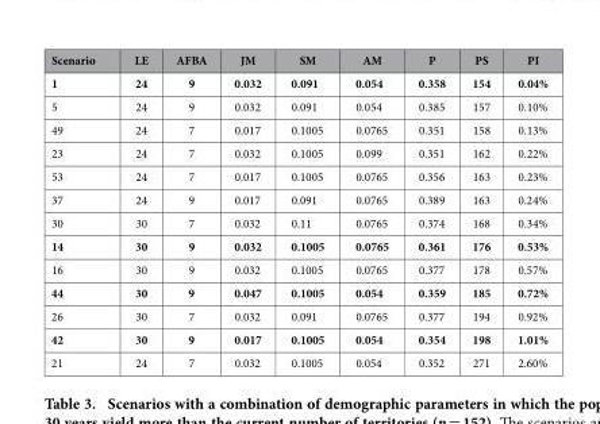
<table><thead><tr><td>Scenario</td><td>LE</td><td>AFBA</td><td>JM</td><td>SM</td><td>AM</td><td>P</td><td>PS</td><td>PI</td></tr></thead><tbody><tr><td>1</td><td>24</td><td>9</td><td>0.032</td><td>0.091</td><td>0.054</td><td>0.358</td><td>154</td><td>0.04%</td></tr><tr><td>5</td><td>24</td><td>9</td><td>0.032</td><td>0.091</td><td>0.054</td><td>0.385</td><td>157</td><td>0.10%</td></tr><tr><td>49</td><td>24</td><td>7</td><td>0.017</td><td>0.1005</td><td>0.0765</td><td>0.351</td><td>158</td><td>0.13%</td></tr><tr><td>23</td><td>24</td><td>7</td><td>0.032</td><td>0.1005</td><td>0.099</td><td>0.351</td><td>162</td><td>0.22%</td></tr><tr><td>53</td><td>24</td><td>7</td><td>0.017</td><td>0.1005</td><td>0.0765</td><td>0.356</td><td>163</td><td>0.23%</td></tr><tr><td>37</td><td>24</td><td>9</td><td>0.017</td><td>0.091</td><td>0.0765</td><td>0.389</td><td>163</td><td>0.24%</td></tr><tr><td>30</td><td>30</td><td>7</td><td>0.032</td><td>0.11</td><td>0.0765</td><td>0.374</td><td>168</td><td>0.34%</td></tr><tr><td>14</td><td>30</td><td>9</td><td>0.032</td><td>0.1005</td><td>0.0765</td><td>0.361</td><td>176</td><td>0.53%</td></tr><tr><td>16</td><td>30</td><td>9</td><td>0.032</td><td>0.1005</td><td>0.0765</td><td>0.377</td><td>178</td><td>0.57%</td></tr><tr><td>44</td><td>30</td><td>9</td><td>0.047</td><td>0.1005</td><td>0.054</td><td>0.359</td><td>185</td><td>0.72%</td></tr><tr><td>26</td><td>30</td><td>7</td><td>0.032</td><td>0.091</td><td>0.0765</td><td>0.377</td><td>194</td><td>0.92%</td></tr><tr><td>42</td><td>30</td><td>9</td><td>0.017</td><td>0.1005</td><td>0.054</td><td>0.354</td><td>198</td><td>1.01%</td></tr><tr><td>21</td><td>24</td><td>7</td><td>0.032</td><td>0.1005</td><td>0.054</td><td>0.352</td><td>271</td><td>2.60%</td></tr></tbody></table>